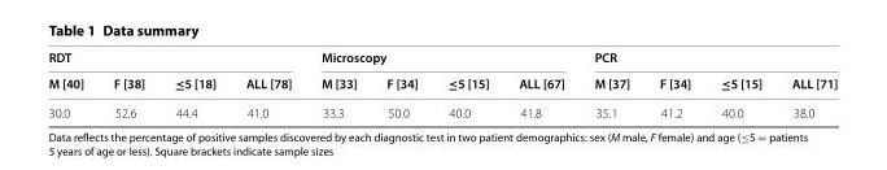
<table><thead><tr><td colspan="4">RDT</td><td colspan="4">Microscopy</td><td colspan="4">PCR</td></tr><tr><td>M [40]</td><td>F [38]</td><td>≤5 [18]</td><td>ALL [78]</td><td>M [33]</td><td>F [34]</td><td>≤5 [15]</td><td>ALL [67]</td><td>M [37]</td><td>F [34]</td><td>≤5 [15]</td><td>ALL [71]</td></tr></thead><tbody><tr><td>30.0</td><td>52.6</td><td>44.4</td><td>41.0</td><td>33.3</td><td>50.0</td><td>40.0</td><td>41.8</td><td>35.1</td><td>41.2</td><td>40.0</td><td>38.0</td></tr></tbody></table>